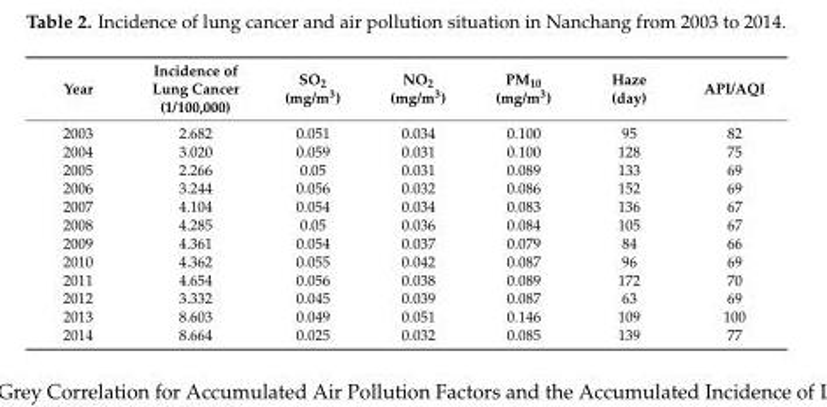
<table><thead><tr><td>Year</td><td>Incidence of Lung Cancer (1/100,000)</td><td>SO<sub>2</sub> (mg/m<sup>3</sup>)</td><td>NO<sub>2</sub> (mg/m<sup>3</sup>)</td><td>PM<sub>10</sub> (mg/m<sup>3</sup>)</td><td>Haze (day)</td><td>API/AQI</td></tr></thead><tbody><tr><td>2003</td><td>2.682</td><td>0.051</td><td>0.034</td><td>0.100</td><td>95</td><td>82</td></tr><tr><td>2004</td><td>3.020</td><td>0.059</td><td>0.031</td><td>0.100</td><td>128</td><td>75</td></tr><tr><td>2005</td><td>2.266</td><td>0.05</td><td>0.031</td><td>0.089</td><td>133</td><td>69</td></tr><tr><td>2006</td><td>3.244</td><td>0.056</td><td>0.032</td><td>0.086</td><td>152</td><td>69</td></tr><tr><td>2007</td><td>4.104</td><td>0.054</td><td>0.034</td><td>0.083</td><td>136</td><td>67</td></tr><tr><td>2008</td><td>4.285</td><td>0.05</td><td>0.036</td><td>0.084</td><td>105</td><td>67</td></tr><tr><td>2009</td><td>4.361</td><td>0.054</td><td>0.037</td><td>0.079</td><td>84</td><td>66</td></tr><tr><td>2010</td><td>4.362</td><td>0.055</td><td>0.042</td><td>0.087</td><td>96</td><td>69</td></tr><tr><td>2011</td><td>4.654</td><td>0.056</td><td>0.038</td><td>0.089</td><td>172</td><td>70</td></tr><tr><td>2012</td><td>3.332</td><td>0.045</td><td>0.039</td><td>0.087</td><td>63</td><td>69</td></tr><tr><td>2013</td><td>8.603</td><td>0.049</td><td>0.051</td><td>0.146</td><td>109</td><td>100</td></tr><tr><td>2014</td><td>8.664</td><td>0.025</td><td>0.032</td><td>0.085</td><td>139</td><td>77</td></tr></tbody></table>